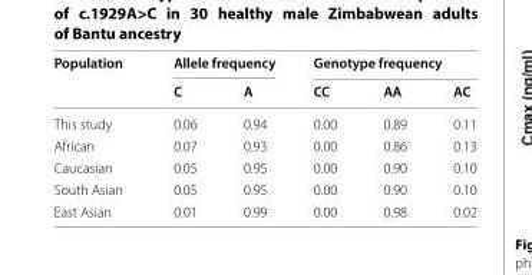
<table><thead><tr><td rowspan="2">Population</td><td colspan="2">Allele frequency</td><td colspan="3">Genotype frequency</td></tr><tr><td>C</td><td>A</td><td>CC</td><td>AA</td><td>AC</td></tr></thead><tbody><tr><td>This study</td><td>0.06</td><td>0.94</td><td>0.00</td><td>0.89</td><td>0.11</td></tr><tr><td>African</td><td>0.07</td><td>0.93</td><td>0.00</td><td>0.86</td><td>0.13</td></tr><tr><td>Caucasian</td><td>0.05</td><td>0.95</td><td>0.00</td><td>0.90</td><td>0.10</td></tr><tr><td>South Asian</td><td>0.05</td><td>0.95</td><td>0.00</td><td>0.90</td><td>0.10</td></tr><tr><td>East Asian</td><td>0.01</td><td>0.99</td><td>0.00</td><td>0.98</td><td>0.02</td></tr></tbody></table>